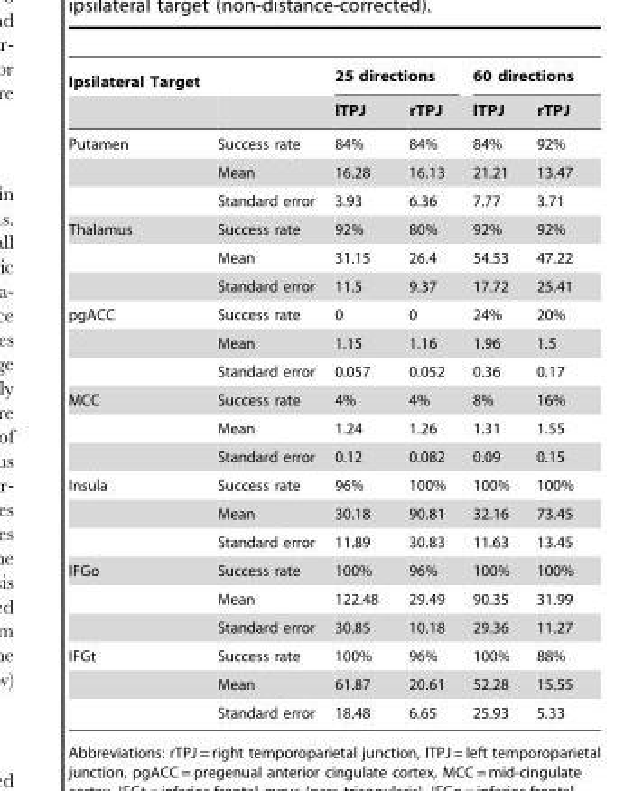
<table><thead><tr><td rowspan="2">Ipsilateral Target</td><td rowspan="2"></td><td colspan="2">25 directions</td><td colspan="2">60 directions</td></tr><tr><td>lTPJ</td><td>rTPJ</td><td>lTPJ</td><td>rTPJ</td></tr></thead><tbody><tr><td rowspan="3">Putamen</td><td>Success rate</td><td>84%</td><td>84%</td><td>84%</td><td>92%</td></tr><tr><td>Mean</td><td>16.28</td><td>16.13</td><td>21.21</td><td>13.47</td></tr><tr><td>Standard error</td><td>3.93</td><td>6.36</td><td>7.77</td><td>3.71</td></tr><tr><td rowspan="3">Thalamus</td><td>Success rate</td><td>92%</td><td>80%</td><td>92%</td><td>92%</td></tr><tr><td>Mean</td><td>31.15</td><td>26.4</td><td>54.53</td><td>47.22</td></tr><tr><td>Standard error</td><td>11.5</td><td>9.37</td><td>17.72</td><td>25.41</td></tr><tr><td rowspan="3">pgACC</td><td>Success rate</td><td>0</td><td>0</td><td>24%</td><td>20%</td></tr><tr><td>Mean</td><td>1.15</td><td>1.16</td><td>1.96</td><td>1.5</td></tr><tr><td>Standard error</td><td>0.057</td><td>0.052</td><td>0.36</td><td>0.17</td></tr><tr><td rowspan="3">MCC</td><td>Success rate</td><td>4%</td><td>4%</td><td>8%</td><td>16%</td></tr><tr><td>Mean</td><td>1.24</td><td>1.26</td><td>1.31</td><td>1.55</td></tr><tr><td>Standard error</td><td>0.12</td><td>0.082</td><td>0.09</td><td>0.15</td></tr><tr><td rowspan="3">Insula</td><td>Success rate</td><td>96%</td><td>100%</td><td>100%</td><td>100%</td></tr><tr><td>Mean</td><td>30.18</td><td>90.81</td><td>32.16</td><td>73.45</td></tr><tr><td>Standard error</td><td>11.89</td><td>30.83</td><td>11.63</td><td>13.45</td></tr><tr><td rowspan="3">IFGo</td><td>Success rate</td><td>100%</td><td>96%</td><td>100%</td><td>100%</td></tr><tr><td>Mean</td><td>122.48</td><td>29.49</td><td>90.35</td><td>31.99</td></tr><tr><td>Standard error</td><td>30.85</td><td>10.18</td><td>29.36</td><td>11.27</td></tr><tr><td rowspan="3">IFGt</td><td>Success rate</td><td>100%</td><td>96%</td><td>100%</td><td>88%</td></tr><tr><td>Mean</td><td>61.87</td><td>20.61</td><td>52.28</td><td>15.55</td></tr><tr><td>Standard error</td><td>18.48</td><td>6.65</td><td>25.93</td><td>5.33</td></tr></tbody></table>